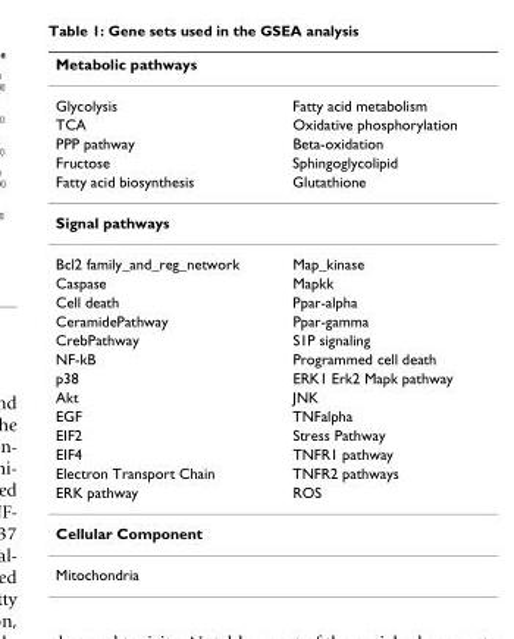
<table><thead><tr><td colspan="2">Metabolic pathways</td></tr><tr><td>Glycolysis</td><td>Fatty acid metabolism</td></tr></thead><tbody><tr><td>TCA</td><td>Oxidative phosphorylation</td></tr><tr><td>PPP pathway</td><td>Beta-oxidation</td></tr><tr><td>Fructose</td><td>Sphingoglycolipid</td></tr><tr><td>Fatty acid biosynthesis</td><td>Glutathione</td></tr><tr><td colspan="2">Signal pathways</td></tr><tr><td>Bcl2 family_and_reg_network</td><td>Map_kinase</td></tr><tr><td>Caspase</td><td>Mapkk</td></tr><tr><td>Cell death</td><td>Ppar-alpha</td></tr><tr><td>CeramidePathway</td><td>Ppar-gamma</td></tr><tr><td>CrebPathway</td><td>S1P signaling</td></tr><tr><td>NF-kB</td><td>Programmed cell death</td></tr><tr><td>p38</td><td>ERK1 Erk2 Mapk pathway</td></tr><tr><td>Akt</td><td>JNK</td></tr><tr><td>EGF</td><td>TNFalpha</td></tr><tr><td>EIF2</td><td>Stress Pathway</td></tr><tr><td>EIF4</td><td>TNFR1 pathway</td></tr><tr><td>Electron Transport Chain</td><td>TNFR2 pathways</td></tr><tr><td>ERK pathway</td><td>ROS</td></tr><tr><td colspan="2">Cellular Component</td></tr><tr><td>Mitochondria</td><td></td></tr></tbody></table>